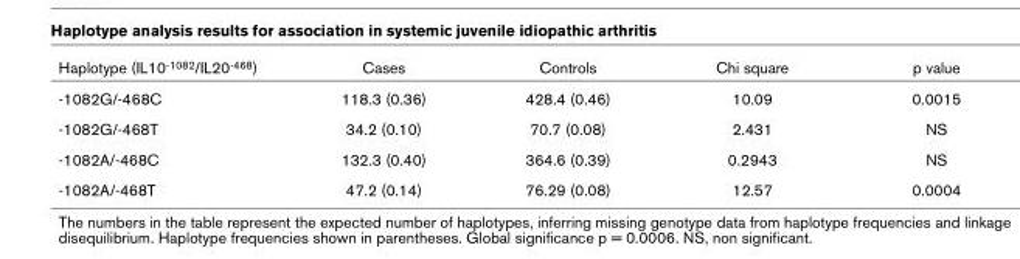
<table><thead><tr><td>Haplotype (IL10-1082/IL20-468)</td><td>Cases</td><td>Controls</td><td>Chi square</td><td>p value</td></tr></thead><tbody><tr><td>-1082G/-468C</td><td>118.3 (0.36)</td><td>428.4 (0.46)</td><td>10.09</td><td>0.0015</td></tr><tr><td>-1082G/-468T</td><td>34.2 (0.10)</td><td>70.7 (0.08)</td><td>2.431</td><td>NS</td></tr><tr><td>-1082A/-468C</td><td>132.3 (0.40)</td><td>364.6 (0.39)</td><td>0.2943</td><td>NS</td></tr><tr><td>-1082A/-468T</td><td>47.2 (0.14)</td><td>76.29 (0.08)</td><td>12.57</td><td>0.0004</td></tr></tbody></table>